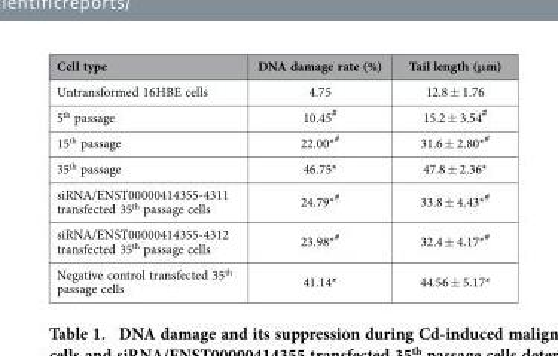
<table><thead><tr><td>Cell type</td><td>DNA damage rate (%)</td><td>Tail length (μm)</td></tr></thead><tbody><tr><td>Untransformed 16HBE cells</td><td>4.75</td><td>12.8 ± 1.76</td></tr><tr><td>5<sup>th</sup> passage</td><td>10.45#</td><td>15.2 ± 3.54#</td></tr><tr><td>15<sup>th</sup> passage</td><td>22.00*#</td><td>31.6 ± 2.80*#</td></tr><tr><td>35<sup>th</sup> passage</td><td>46.75*</td><td>47.8 ± 2.36*</td></tr><tr><td>siRNA/ENST00000414355-4311 transfected 35<sup>th</sup> passage cells</td><td>24.79*#</td><td>33.8 ± 4.43*#</td></tr><tr><td>siRNA/ENST00000414355-4312 transfected 35<sup>th</sup> passage cells</td><td>23.98*#</td><td>32.4 ± 4.17*#</td></tr><tr><td>Negative control transfected 35<sup>th</sup> passage cells</td><td>41.14*</td><td>44.56 ± 5.17*</td></tr></tbody></table>